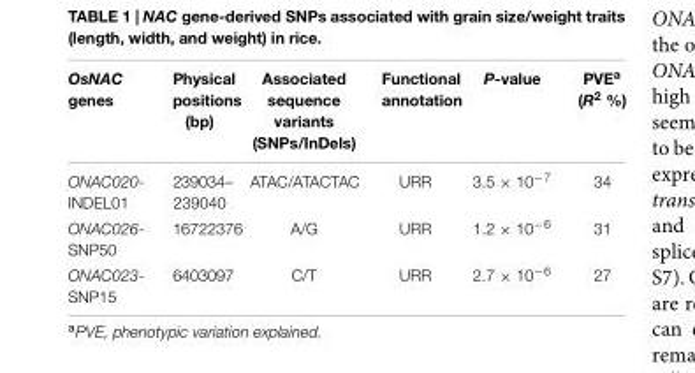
<table><thead><tr><td>OsNAC genes</td><td>Physical positions (bp)</td><td>Associated sequence variants (SNPs/InDels)</td><td>Functional annotation</td><td>P-value</td><td>PVE<sup>a</sup> (R<sup>2</sup> %)</td></tr></thead><tbody><tr><td>ONAC020- INDEL01</td><td>239034– 239040</td><td>ATAC/ATACTAC</td><td>URR</td><td>3.5 × 10<sup>−7</sup></td><td>34</td></tr><tr><td>ONAC026- SNP50</td><td>16722376</td><td>A/G</td><td>URR</td><td>1.2 × 10<sup>−6</sup></td><td>31</td></tr><tr><td>ONAC023- SNP15</td><td>6403097</td><td>C/T</td><td>URR</td><td>2.7 × 10<sup>−6</sup></td><td>27</td></tr></tbody></table>